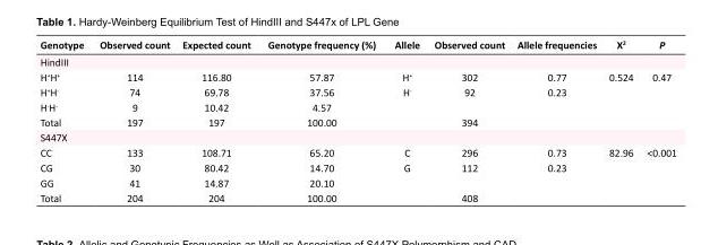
<table><tbody><tr><td>Genotype</td><td>Observed count</td><td>Expected count</td><td>Genotype frequency (%)</td><td>Allele</td><td>Observed count</td><td>Allele frequencies</td><td>X<sup>2</sup></td><td>P</td></tr><tr><td colspan="9">HindIII</td></tr><tr><td>H<sup>+</sup>H<sup>+</sup></td><td>114</td><td>116.80</td><td>57.87</td><td>H<sup>+</sup></td><td>302</td><td>0.77</td><td>0.524</td><td>0.47</td></tr><tr><td>H<sup>+</sup>H-</td><td>74</td><td>69.78</td><td>37.56</td><td>H-</td><td>92</td><td>0.23</td><td></td><td></td></tr><tr><td>H-H-</td><td>9</td><td>10.42</td><td>4.57</td><td></td><td></td><td></td><td></td><td></td></tr><tr><td>Total</td><td>197</td><td>197</td><td>100.00</td><td></td><td>394</td><td></td><td></td><td></td></tr><tr><td colspan="9">S447X</td></tr><tr><td>CC</td><td>133</td><td>108.71</td><td>65.20</td><td>C</td><td>296</td><td>0.73</td><td>82.96</td><td>&lt;0.001</td></tr><tr><td>CG</td><td>30</td><td>80.42</td><td>14.70</td><td>G</td><td>112</td><td>0.23</td><td></td><td></td></tr><tr><td>GG</td><td>41</td><td>14.87</td><td>20.10</td><td></td><td></td><td></td><td></td><td></td></tr><tr><td>Total</td><td>204</td><td>204</td><td>100.00</td><td></td><td>408</td><td></td><td></td><td></td></tr></tbody></table>